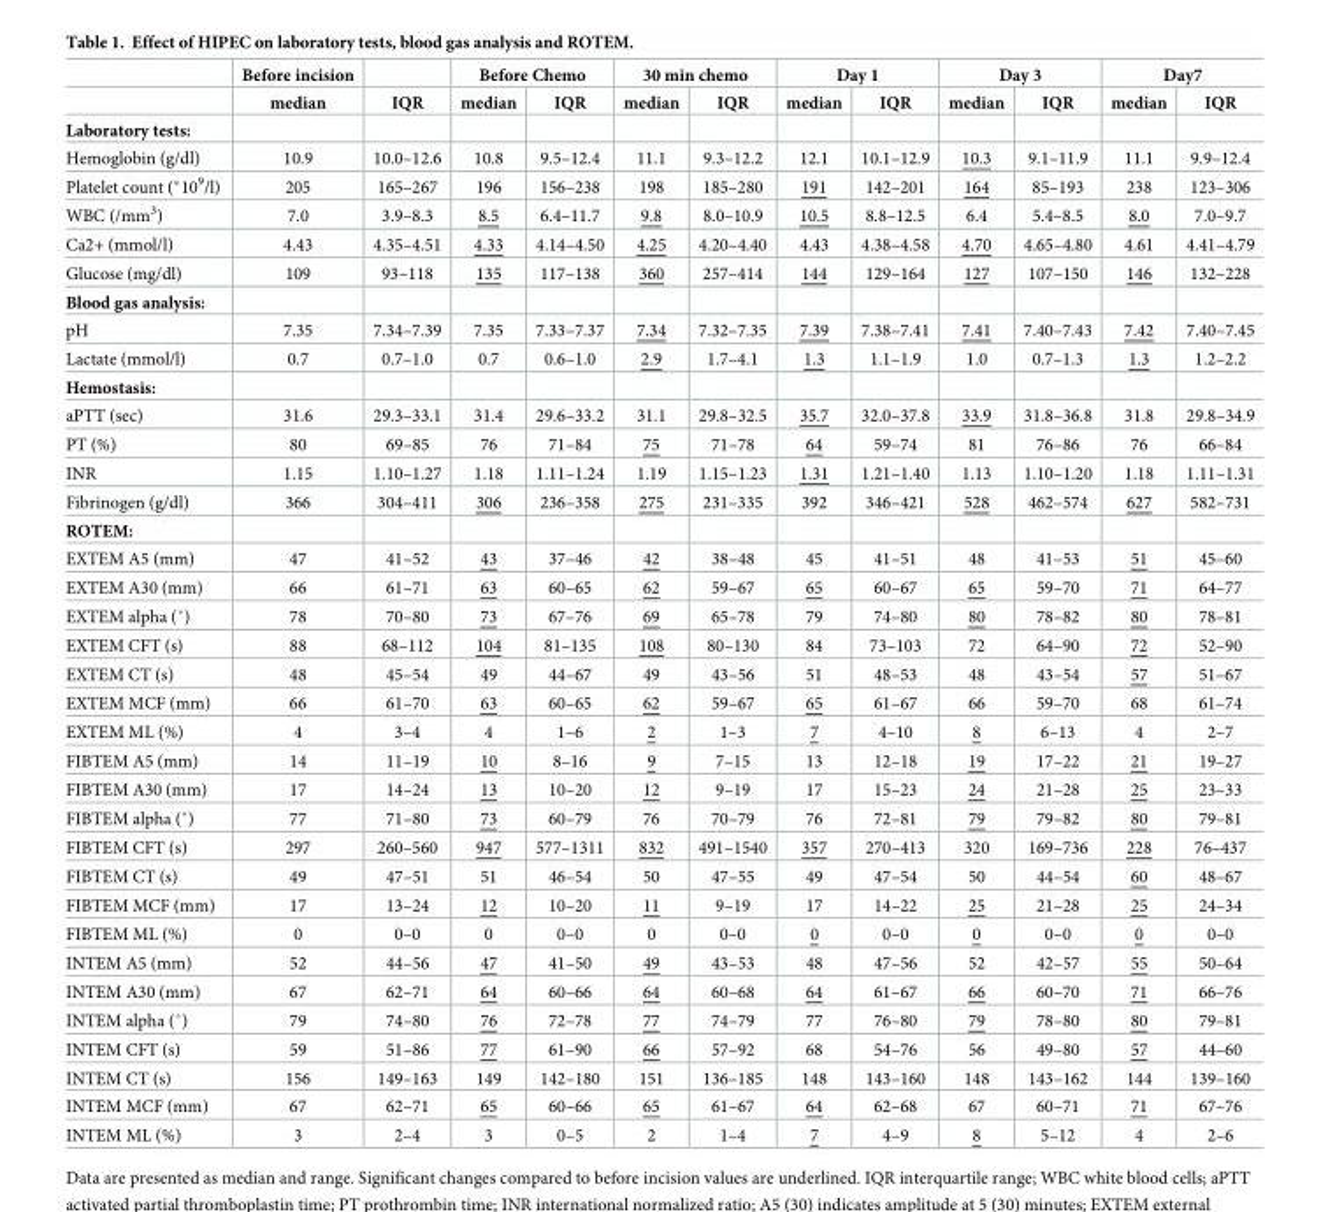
<table><thead><tr><td rowspan="2"></td><td rowspan="2">Before incision median</td><td rowspan="2">IQR</td><td colspan="2">Before Chemo</td><td colspan="2">30 min chemo</td><td colspan="2">Day 1</td><td colspan="2">Day 3</td><td colspan="2">Day7</td></tr><tr><td>median</td><td>IQR</td><td>median</td><td>IQR</td><td>median</td><td>IQR</td><td>median</td><td>IQR</td><td>median</td><td>IQR</td></tr></thead><tbody><tr><td colspan="13">Laboratory tests:</td></tr><tr><td>Hemoglobin (g/dl)</td><td>10.9</td><td>10.0–12.6</td><td>10.8</td><td>9.5–12.4</td><td>11.1</td><td>9.3–12.2</td><td>12.1</td><td>10.1–12.9</td><td>10.3</td><td>9.1–11.9</td><td>11.1</td><td>9.9–12.4</td></tr><tr><td>Platelet count (*10<sup>9</sup>/l)</td><td>205</td><td>165–267</td><td>196</td><td>156–238</td><td>198</td><td>185–280</td><td>191</td><td>142–201</td><td>164</td><td>85–193</td><td>238</td><td>123–306</td></tr><tr><td>WBC (/mm<sup>3</sup>)</td><td>7.0</td><td>3.9–8.3</td><td>8.5</td><td>6.4–11.7</td><td>9.8</td><td>8.0–10.9</td><td>10.5</td><td>8.8–12.5</td><td>6.4</td><td>5.4–8.5</td><td>8.0</td><td>7.0–9.7</td></tr><tr><td>Ca2+ (mmol/l)</td><td>4.43</td><td>4.35–4.51</td><td>4.33</td><td>4.14–4.50</td><td>4.25</td><td>4.20–4.40</td><td>4.43</td><td>4.38–4.58</td><td>4.70</td><td>4.65–4.80</td><td>4.61</td><td>4.41–4.79</td></tr><tr><td>Glucose (mg/dl)</td><td>109</td><td>93–118</td><td>135</td><td>117–138</td><td>360</td><td>257–414</td><td>144</td><td>129–164</td><td>127</td><td>107–150</td><td>146</td><td>132–228</td></tr><tr><td colspan="13">Blood gas analysis:</td></tr><tr><td>pH</td><td>7.35</td><td>7.34–7.39</td><td>7.35</td><td>7.33–7.37</td><td>7.34</td><td>7.32–7.35</td><td>7.39</td><td>7.38–7.41</td><td>7.41</td><td>7.40–7.43</td><td>7.42</td><td>7.40–7.45</td></tr><tr><td>Lactate (mmol/l)</td><td>0.7</td><td>0.7–1.0</td><td>0.7</td><td>0.6–1.0</td><td>2.9</td><td>1.7–4.1</td><td>1.3</td><td>1.1–1.9</td><td>1.0</td><td>0.7–1.3</td><td>1.3</td><td>1.2–2.2</td></tr><tr><td colspan="13">Hemostasis:</td></tr><tr><td>aPTT (sec)</td><td>31.6</td><td>29.3–33.1</td><td>31.4</td><td>29.6–33.2</td><td>31.1</td><td>29.8–32.5</td><td>35.7</td><td>32.0–37.8</td><td>33.9</td><td>31.8–36.8</td><td>31.8</td><td>29.8–34.9</td></tr><tr><td>PT (%)</td><td>80</td><td>69–85</td><td>76</td><td>71–84</td><td>75</td><td>71–78</td><td>64</td><td>59–74</td><td>81</td><td>76–86</td><td>76</td><td>66–84</td></tr><tr><td>INR</td><td>1.15</td><td>1.10–1.27</td><td>1.18</td><td>1.11–1.24</td><td>1.19</td><td>1.15–1.23</td><td>1.31</td><td>1.21–1.40</td><td>1.13</td><td>1.10–1.20</td><td>1.18</td><td>1.11–1.31</td></tr><tr><td>Fibrinogen (g/dl)</td><td>366</td><td>304–411</td><td>306</td><td>236–358</td><td>275</td><td>231–335</td><td>392</td><td>346–421</td><td>528</td><td>462–574</td><td>627</td><td>582–731</td></tr><tr><td colspan="13">ROTEM:</td></tr><tr><td>EXTEM A5 (mm)</td><td>47</td><td>41–52</td><td>43</td><td>37–46</td><td>42</td><td>38–48</td><td>45</td><td>41–51</td><td>48</td><td>41–53</td><td>51</td><td>45–60</td></tr><tr><td>EXTEM A30 (mm)</td><td>66</td><td>61–71</td><td>63</td><td>60–65</td><td>62</td><td>59–67</td><td>65</td><td>60–67</td><td>65</td><td>59–70</td><td>71</td><td>64–77</td></tr><tr><td>EXTEM alpha (˚)</td><td>78</td><td>70–80</td><td>73</td><td>67–76</td><td>69</td><td>65–78</td><td>79</td><td>74–80</td><td>80</td><td>78–82</td><td>80</td><td>78–81</td></tr><tr><td>EXTEM CFT (s)</td><td>88</td><td>68–112</td><td>104</td><td>81–135</td><td>108</td><td>80–130</td><td>84</td><td>73–103</td><td>72</td><td>64–90</td><td>72</td><td>52–90</td></tr><tr><td>EXTEM CT (s)</td><td>48</td><td>45–54</td><td>49</td><td>44–67</td><td>49</td><td>43–56</td><td>51</td><td>48–53</td><td>48</td><td>43–54</td><td>57</td><td>51–67</td></tr><tr><td>EXTEM MCF (mm)</td><td>66</td><td>61–70</td><td>63</td><td>60–65</td><td>62</td><td>59–67</td><td>65</td><td>61–67</td><td>66</td><td>59–70</td><td>68</td><td>61–74</td></tr><tr><td>EXTEM ML (%)</td><td>4</td><td>3–4</td><td>4</td><td>1–6</td><td>2</td><td>1–3</td><td>7</td><td>4–10</td><td>8</td><td>6–13</td><td>4</td><td>2–7</td></tr><tr><td>FIBTEM A5 (mm)</td><td>14</td><td>11–19</td><td>10</td><td>8–16</td><td>9</td><td>7–15</td><td>13</td><td>12–18</td><td>19</td><td>17–22</td><td>21</td><td>19–27</td></tr><tr><td>FIBTEM A30 (mm)</td><td>17</td><td>14–24</td><td>13</td><td>10–20</td><td>12</td><td>9–19</td><td>17</td><td>15–23</td><td>24</td><td>21–28</td><td>25</td><td>23–33</td></tr><tr><td>FIBTEM alpha (˚)</td><td>77</td><td>71–80</td><td>73</td><td>60–79</td><td>76</td><td>70–79</td><td>76</td><td>72–81</td><td>79</td><td>79–82</td><td>80</td><td>79–81</td></tr><tr><td>FIBTEM CFT (s)</td><td>297</td><td>260–560</td><td>947</td><td>577–1311</td><td>832</td><td>491–1540</td><td>357</td><td>270–413</td><td>320</td><td>169–736</td><td>228</td><td>76–437</td></tr><tr><td>FIBTEM CT (s)</td><td>49</td><td>47–51</td><td>51</td><td>46–54</td><td>50</td><td>47–55</td><td>49</td><td>47–54</td><td>50</td><td>44–54</td><td>60</td><td>48–67</td></tr><tr><td>FIBTEM MCF (mm)</td><td>17</td><td>13–24</td><td>12</td><td>10–20</td><td>11</td><td>9–19</td><td>17</td><td>14–22</td><td>25</td><td>21–28</td><td>25</td><td>24–34</td></tr><tr><td>FIBTEM ML (%)</td><td>0</td><td>0–0</td><td>0</td><td>0–0</td><td>0</td><td>0–0</td><td>0</td><td>0–0</td><td>0</td><td>0–0</td><td>0</td><td>0–0</td></tr><tr><td>INTEM A5 (mm)</td><td>52</td><td>44–56</td><td>47</td><td>41–50</td><td>49</td><td>43–53</td><td>48</td><td>47–56</td><td>52</td><td>42–57</td><td>55</td><td>50–64</td></tr><tr><td>INTEM A30 (mm)</td><td>67</td><td>62–71</td><td>64</td><td>60–66</td><td>64</td><td>60–68</td><td>64</td><td>61–67</td><td>66</td><td>60–70</td><td>71</td><td>66–76</td></tr><tr><td>INTEM alpha (˚)</td><td>79</td><td>74–80</td><td>76</td><td>72–78</td><td>77</td><td>74–79</td><td>77</td><td>76–80</td><td>79</td><td>78–80</td><td>80</td><td>79–81</td></tr><tr><td>INTEM CFT (s)</td><td>59</td><td>51–86</td><td>77</td><td>61–90</td><td>66</td><td>57–92</td><td>68</td><td>54–76</td><td>56</td><td>49–80</td><td>57</td><td>44–60</td></tr><tr><td>INTEM CT (s)</td><td>156</td><td>149–163</td><td>149</td><td>142–180</td><td>151</td><td>136–185</td><td>148</td><td>143–160</td><td>148</td><td>143–162</td><td>144</td><td>139–160</td></tr><tr><td>INTEM MCF (mm)</td><td>67</td><td>62–71</td><td>65</td><td>60–66</td><td>65</td><td>61–67</td><td>64</td><td>62–68</td><td>67</td><td>60–71</td><td>71</td><td>67–76</td></tr><tr><td>INTEM ML (%)</td><td>3</td><td>2–4</td><td>3</td><td>0–5</td><td>2</td><td>1–4</td><td>7</td><td>4–9</td><td>8</td><td>5–12</td><td>4</td><td>2–6</td></tr></tbody></table>